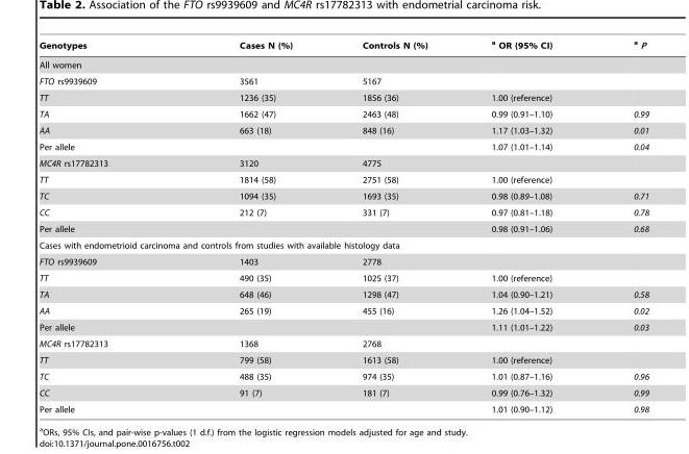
<table><thead><tr><td>Genotypes</td><td>Cases N (%)</td><td>Controls N (%)</td><td>a OR (95% CI)</td><td>a P</td></tr></thead><tbody><tr><td colspan="5">All women</td></tr><tr><td>FTO rs9939609</td><td>3561</td><td>5167</td><td></td><td></td></tr><tr><td>TT</td><td>1236 (35)</td><td>1856 (36)</td><td>1.00 (reference)</td><td></td></tr><tr><td>TA</td><td>1662 (47)</td><td>2463 (48)</td><td>0.99 (0.91–1.10)</td><td>0.99</td></tr><tr><td>AA</td><td>663 (18)</td><td>848 (16)</td><td>1.17 (1.03–1.32)</td><td>0.01</td></tr><tr><td>Per allele</td><td></td><td></td><td>1.07 (1.01–1.14)</td><td>0.04</td></tr><tr><td>MC4R rs17782313</td><td>3120</td><td>4775</td><td></td><td></td></tr><tr><td>TT</td><td>1814 (58)</td><td>2751 (58)</td><td>1.00 (reference)</td><td></td></tr><tr><td>TC</td><td>1094 (35)</td><td>1693 (35)</td><td>0.98 (0.89–1.08)</td><td>0.71</td></tr><tr><td>CC</td><td>212 (7)</td><td>331 (7)</td><td>0.97 (0.81–1.18)</td><td>0.78</td></tr><tr><td>Per allele</td><td></td><td></td><td>0.98 (0.91–1.06)</td><td>0.68</td></tr><tr><td colspan="5">Cases with endometrioid carcinoma and controls from studies with available histology data</td></tr><tr><td>FTO rs9939609</td><td>1403</td><td>2778</td><td></td><td></td></tr><tr><td>TT</td><td>490 (35)</td><td>1025 (37)</td><td>1.00 (reference)</td><td></td></tr><tr><td>TA</td><td>648 (46)</td><td>1298 (47)</td><td>1.04 (0.90–1.21)</td><td>0.58</td></tr><tr><td>AA</td><td>265 (19)</td><td>455 (16)</td><td>1.26 (1.04–1.52)</td><td>0.02</td></tr><tr><td>Per allele</td><td></td><td></td><td>1.11 (1.01–1.22)</td><td>0.03</td></tr><tr><td>MC4R rs17782313</td><td>1368</td><td>2768</td><td></td><td></td></tr><tr><td>TT</td><td>799 (58)</td><td>1613 (58)</td><td>1.00 (reference)</td><td></td></tr><tr><td>TC</td><td>488 (35)</td><td>974 (35)</td><td>1.01 (0.87–1.16)</td><td>0.96</td></tr><tr><td>CC</td><td>91 (7)</td><td>181 (7)</td><td>0.99 (0.76–1.32)</td><td>0.99</td></tr><tr><td>Per allele</td><td></td><td></td><td>1.01 (0.90–1.12)</td><td>0.98</td></tr></tbody></table>